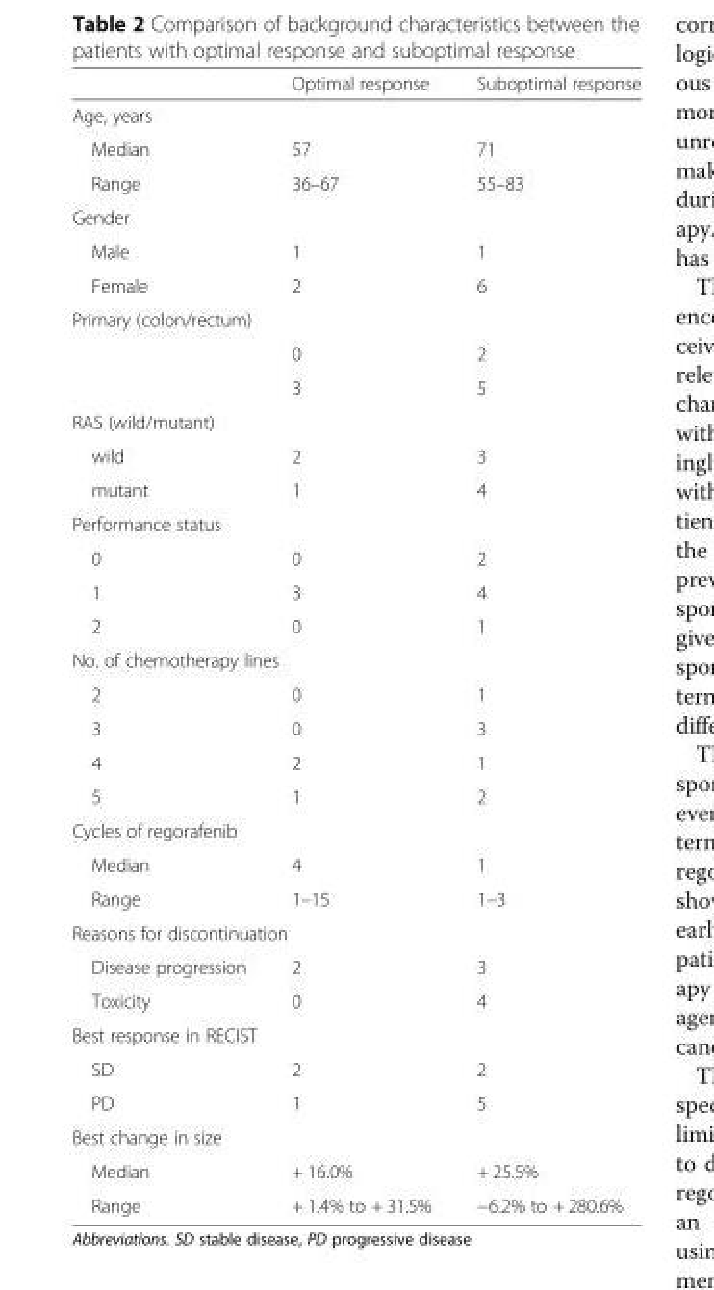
<table><thead><tr><td></td><td>Optimal response</td><td>Suboptimal response</td></tr></thead><tbody><tr><td colspan="3">Age, years</td></tr><tr><td>Median</td><td>57</td><td>71</td></tr><tr><td>Range</td><td>36–67</td><td>55–83</td></tr><tr><td colspan="3">Gender</td></tr><tr><td>Male</td><td>1</td><td>1</td></tr><tr><td>Female</td><td>2</td><td>6</td></tr><tr><td colspan="3">Primary (colon/rectum)</td></tr><tr><td></td><td>0</td><td>2</td></tr><tr><td></td><td>3</td><td>5</td></tr><tr><td colspan="3">RAS (wild/mutant)</td></tr><tr><td>wild</td><td>2</td><td>3</td></tr><tr><td>mutant</td><td>1</td><td>4</td></tr><tr><td colspan="3">Performance status</td></tr><tr><td>0</td><td>0</td><td>2</td></tr><tr><td>1</td><td>3</td><td>4</td></tr><tr><td>2</td><td>0</td><td>1</td></tr><tr><td colspan="3">No. of chemotherapy lines</td></tr><tr><td>2</td><td>0</td><td>1</td></tr><tr><td>3</td><td>0</td><td>3</td></tr><tr><td>4</td><td>2</td><td>1</td></tr><tr><td>5</td><td>1</td><td>2</td></tr><tr><td colspan="3">Cycles of regorafenib</td></tr><tr><td>Median</td><td>4</td><td>1</td></tr><tr><td>Range</td><td>1–15</td><td>1–3</td></tr><tr><td colspan="3">Reasons for discontinuation</td></tr><tr><td>Disease progression</td><td>2</td><td>3</td></tr><tr><td>Toxicity</td><td>0</td><td>4</td></tr><tr><td colspan="3">Best response in RECIST</td></tr><tr><td>SD</td><td>2</td><td>2</td></tr><tr><td>PD</td><td>1</td><td>5</td></tr><tr><td colspan="3">Best change in size</td></tr><tr><td>Median</td><td>+ 16.0%</td><td>+ 25.5%</td></tr><tr><td>Range</td><td>+ 1.4% to + 31.5%</td><td>−6.2% to + 280.6%</td></tr></tbody></table>